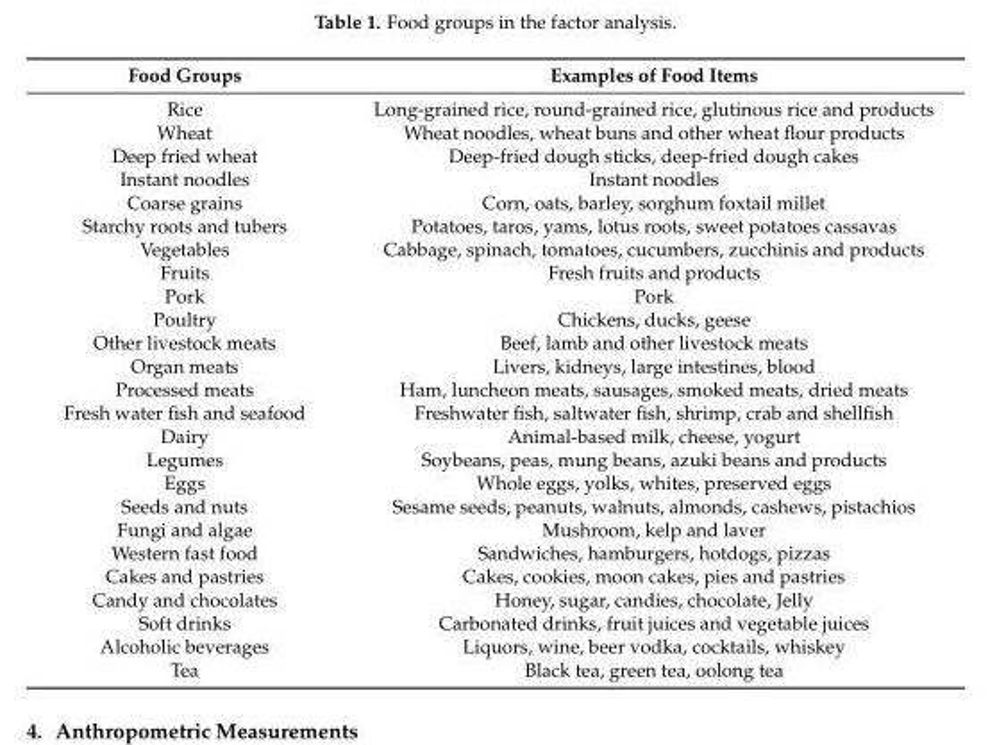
<table><thead><tr><td>Food Groups</td><td>Examples of Food Items</td></tr></thead><tbody><tr><td>Rice</td><td>Long-grained rice, round-grained rice, glutinous rice and products</td></tr><tr><td>Wheat</td><td>Wheat noodles, wheat buns and other wheat flour products</td></tr><tr><td>Deep fried wheat</td><td>Deep-fried dough sticks, deep-fried dough cakes</td></tr><tr><td>Instant noodles</td><td>Instant noodles</td></tr><tr><td>Coarse grains</td><td>Corn, oats, barley, sorghum foxtail millet</td></tr><tr><td>Starchy roots and tubers</td><td>Potatoes, taros, yams, lotus roots, sweet potatoes cassavas</td></tr><tr><td>Vegetables</td><td>Cabbage, spinach, tomatoes, cucumbers, zucchinis and products</td></tr><tr><td>Fruits</td><td>Fresh fruits and products</td></tr><tr><td>Pork</td><td>Pork</td></tr><tr><td>Poultry</td><td>Chickens, ducks, geese</td></tr><tr><td>Other livestock meats</td><td>Beef, lamb and other livestock meats</td></tr><tr><td>Organ meats</td><td>Livers, kidneys, large intestines, blood</td></tr><tr><td>Processed meats</td><td>Ham, luncheon meats, sausages, smoked meats, dried meats</td></tr><tr><td>Fresh water fish and seafood</td><td>Freshwater fish, saltwater fish, shrimp, crab and shellfish</td></tr><tr><td>Dairy</td><td>Animal-based milk, cheese, yogurt</td></tr><tr><td>Legumes</td><td>Soybeans, peas, mung beans, azuki beans and products</td></tr><tr><td>Eggs</td><td>Whole eggs, yolks, whites, preserved eggs</td></tr><tr><td>Seeds and nuts</td><td>Sesame seeds, peanuts, walnuts, almonds, cashews, pistachios</td></tr><tr><td>Fungi and algae</td><td>Mushroom, kelp and laver</td></tr><tr><td>Western fast food</td><td>Sandwiches, hamburgers, hotdogs, pizzas</td></tr><tr><td>Cakes and pastries</td><td>Cakes, cookies, moon cakes, pies and pastries</td></tr><tr><td>Candy and chocolates</td><td>Honey, sugar, candies, chocolate, Jelly</td></tr><tr><td>Soft drinks</td><td>Carbonated drinks, fruit juices and vegetable juices</td></tr><tr><td>Alcoholic beverages</td><td>Liquors, wine, beer vodka, cocktails, whiskey</td></tr><tr><td>Tea</td><td>Black tea, green tea, oolong tea</td></tr></tbody></table>